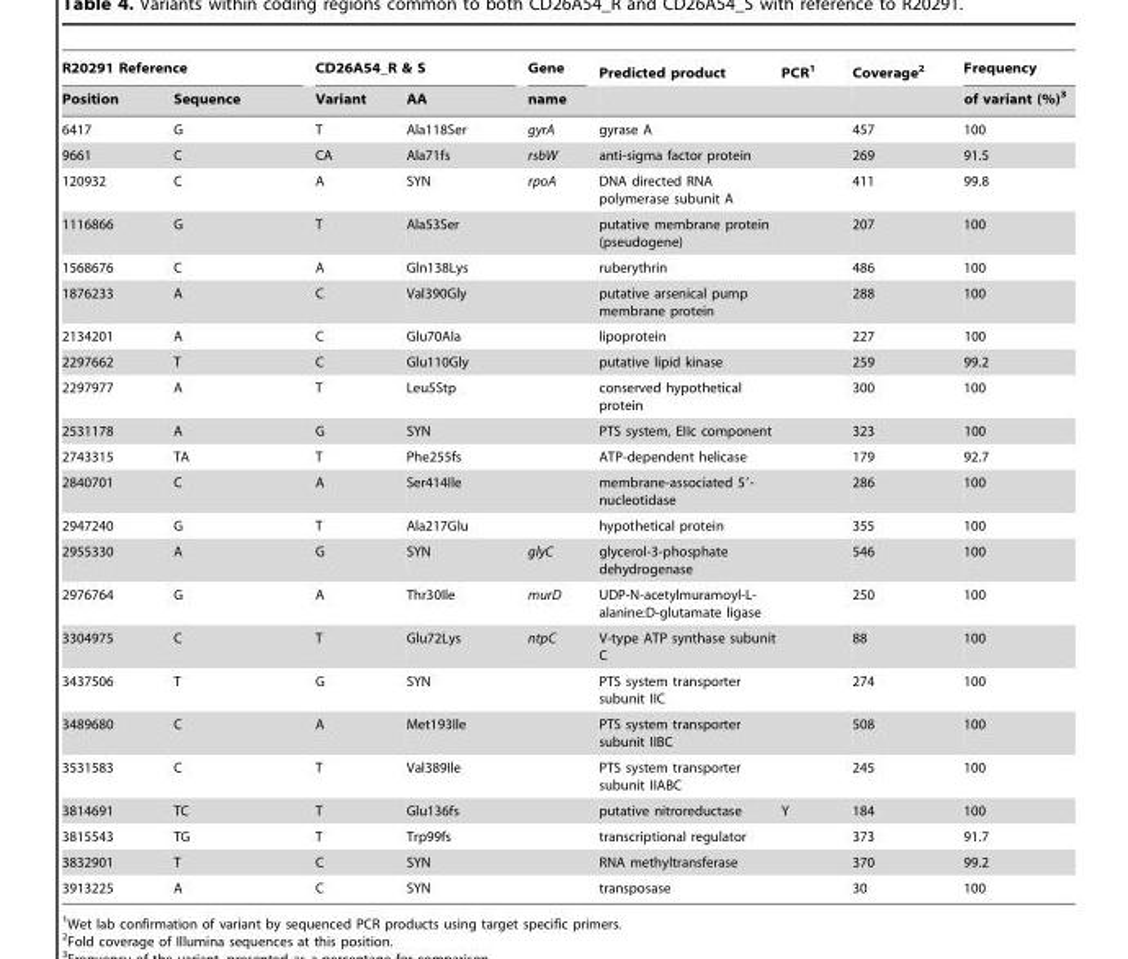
<table><thead><tr><td colspan="2">R20291 Reference</td><td colspan="2">CD26A54_R &amp; S</td><td rowspan="2">Gene name</td><td rowspan="2">Predicted product</td><td rowspan="2">PCR<sup>1</sup></td><td rowspan="2">Coverage<sup>2</sup></td><td rowspan="2">Frequency of variant (%)<sup>3</sup></td></tr><tr><td>Position</td><td>Sequence</td><td>Variant</td><td>AA</td></tr></thead><tbody><tr><td>6417</td><td>G</td><td>T</td><td>Ala118Ser</td><td>gyrA</td><td>gyrase A</td><td></td><td>457</td><td>100</td></tr><tr><td>9661</td><td>C</td><td>CA</td><td>Ala71fs</td><td>rsbW</td><td>anti-sigma factor protein</td><td></td><td>269</td><td>91.5</td></tr><tr><td>120932</td><td>C</td><td>A</td><td>SYN</td><td>rpoA</td><td>DNA directed RNA polymerase subunit A</td><td></td><td>411</td><td>99.8</td></tr><tr><td>1116866</td><td>G</td><td>T</td><td>Ala53Ser</td><td></td><td>putative membrane protein (pseudogene)</td><td></td><td>207</td><td>100</td></tr><tr><td>1568676</td><td>C</td><td>A</td><td>Gln138Lys</td><td></td><td>ruberythrin</td><td></td><td>486</td><td>100</td></tr><tr><td>1876233</td><td>A</td><td>C</td><td>Val390Gly</td><td></td><td>putative arsenical pump membrane protein</td><td></td><td>288</td><td>100</td></tr><tr><td>2134201</td><td>A</td><td>C</td><td>Glu70Ala</td><td></td><td>lipoprotein</td><td></td><td>227</td><td>100</td></tr><tr><td>2297662</td><td>T</td><td>C</td><td>Glu110Gly</td><td></td><td>putative lipid kinase</td><td></td><td>259</td><td>99.2</td></tr><tr><td>2297977</td><td>A</td><td>T</td><td>Leu5Stp</td><td></td><td>conserved hypothetical protein</td><td></td><td>300</td><td>100</td></tr><tr><td>2531178</td><td>A</td><td>G</td><td>SYN</td><td></td><td>PTS system, EIIc component</td><td></td><td>323</td><td>100</td></tr><tr><td>2743315</td><td>TA</td><td>T</td><td>Phe255fs</td><td></td><td>ATP-dependent helicase</td><td></td><td>179</td><td>92.7</td></tr><tr><td>2840701</td><td>C</td><td>A</td><td>Ser414Ile</td><td></td><td>membrane-associated 5′- nucleotidase</td><td></td><td>286</td><td>100</td></tr><tr><td>2947240</td><td>G</td><td>T</td><td>Ala217Glu</td><td></td><td>hypothetical protein</td><td></td><td>355</td><td>100</td></tr><tr><td>2955330</td><td>A</td><td>G</td><td>SYN</td><td>glyC</td><td>glycerol-3-phosphate dehydrogenase</td><td></td><td>546</td><td>100</td></tr><tr><td>2976764</td><td>G</td><td>A</td><td>Thr30Ile</td><td>murD</td><td>UDP-N-acetylmuramoyl-L- alanine:D-glutamate ligase</td><td></td><td>250</td><td>100</td></tr><tr><td>3304975</td><td>C</td><td>T</td><td>Glu72Lys</td><td>ntpC</td><td>V-type ATP synthase subunit C</td><td></td><td>88</td><td>100</td></tr><tr><td>3437506</td><td>T</td><td>G</td><td>SYN</td><td></td><td>PTS system transporter subunit IIC</td><td></td><td>274</td><td>100</td></tr><tr><td>3489680</td><td>C</td><td>A</td><td>Met193Ile</td><td></td><td>PTS system transporter subunit IIBC</td><td></td><td>508</td><td>100</td></tr><tr><td>3531583</td><td>C</td><td>T</td><td>Val389Ile</td><td></td><td>PTS system transporter subunit IIABC</td><td></td><td>245</td><td>100</td></tr><tr><td>3814691</td><td>TC</td><td>T</td><td>Glu136fs</td><td></td><td>putative nitroreductase</td><td>Y</td><td>184</td><td>100</td></tr><tr><td>3815543</td><td>TG</td><td>T</td><td>Trp99fs</td><td></td><td>transcriptional regulator</td><td></td><td>373</td><td>91.7</td></tr><tr><td>3832901</td><td>T</td><td>C</td><td>SYN</td><td></td><td>RNA methyltransferase</td><td></td><td>370</td><td>99.2</td></tr><tr><td>3913225</td><td>A</td><td>C</td><td>SYN</td><td></td><td>transposase</td><td></td><td>30</td><td>100</td></tr></tbody></table>